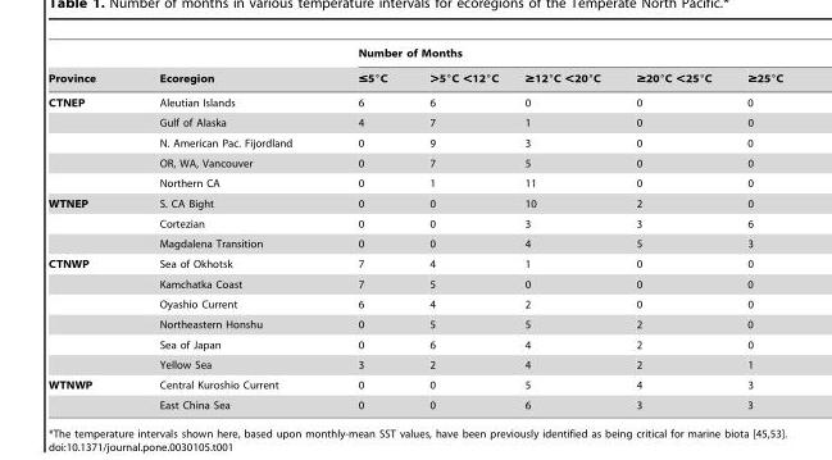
<table><thead><tr><td rowspan="2">Province</td><td rowspan="2">Ecoregion</td><td colspan="5">Number of Months</td></tr><tr><td>≤5°C</td><td>&gt;5°C &lt;12°C</td><td>≥12°C &lt;20°C</td><td>≥20°C &lt;25°C</td><td>≥25°C</td></tr></thead><tbody><tr><td rowspan="5">CTNEP</td><td>Aleutian Islands</td><td>6</td><td>6</td><td>0</td><td>0</td><td>0</td></tr><tr><td>Gulf of Alaska</td><td>4</td><td>7</td><td>1</td><td>0</td><td>0</td></tr><tr><td>N. American Pac. Fijordland</td><td>0</td><td>9</td><td>3</td><td>0</td><td>0</td></tr><tr><td>OR, WA, Vancouver</td><td>0</td><td>7</td><td>5</td><td>0</td><td>0</td></tr><tr><td>Northern CA</td><td>0</td><td>1</td><td>11</td><td>0</td><td>0</td></tr><tr><td rowspan="3">WTNEP</td><td>S. CA Bight</td><td>0</td><td>0</td><td>10</td><td>2</td><td>0</td></tr><tr><td>Cortezian</td><td>0</td><td>0</td><td>3</td><td>3</td><td>6</td></tr><tr><td>Magdalena Transition</td><td>0</td><td>0</td><td>4</td><td>5</td><td>3</td></tr><tr><td rowspan="6">CTNWP</td><td>Sea of Okhotsk</td><td>7</td><td>4</td><td>1</td><td>0</td><td>0</td></tr><tr><td>Kamchatka Coast</td><td>7</td><td>5</td><td>0</td><td>0</td><td>0</td></tr><tr><td>Oyashio Current</td><td>6</td><td>4</td><td>2</td><td>0</td><td>0</td></tr><tr><td>Northeastern Honshu</td><td>0</td><td>5</td><td>5</td><td>2</td><td>0</td></tr><tr><td>Sea of Japan</td><td>0</td><td>6</td><td>4</td><td>2</td><td>0</td></tr><tr><td>Yellow Sea</td><td>3</td><td>2</td><td>4</td><td>2</td><td>1</td></tr><tr><td rowspan="2">WTNWP</td><td>Central Kuroshio Current</td><td>0</td><td>0</td><td>5</td><td>4</td><td>3</td></tr><tr><td>East China Sea</td><td>0</td><td>0</td><td>6</td><td>3</td><td>3</td></tr></tbody></table>